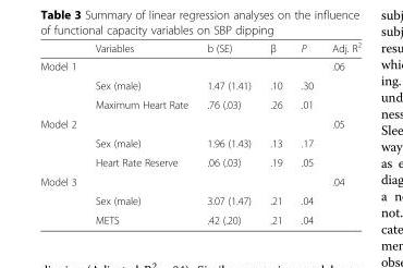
<table><thead><tr><td></td><td>Variables</td><td>b (SE)</td><td>β</td><td>P</td><td>Adj. R<sup>2</sup></td></tr></thead><tbody><tr><td rowspan="3">Model 1</td><td></td><td></td><td></td><td></td><td>.06</td></tr><tr><td>Sex (male)</td><td>1.47 (1.41)</td><td>.10</td><td>.30</td><td></td></tr><tr><td>Maximum Heart Rate</td><td>.76 (.03)</td><td>.26</td><td>.01</td><td></td></tr><tr><td rowspan="3">Model 2</td><td></td><td></td><td></td><td></td><td>.05</td></tr><tr><td>Sex (male)</td><td>1.96 (1.43)</td><td>.13</td><td>.17</td><td></td></tr><tr><td>Heart Rate Reserve</td><td>.06 (.03)</td><td>.19</td><td>.05</td><td></td></tr><tr><td rowspan="3">Model 3</td><td></td><td></td><td></td><td></td><td>.04</td></tr><tr><td>Sex (male)</td><td>3.07 (1.47)</td><td>.21</td><td>.04</td><td></td></tr><tr><td>METS</td><td>.42 (.20)</td><td>.21</td><td>.04</td><td></td></tr></tbody></table>